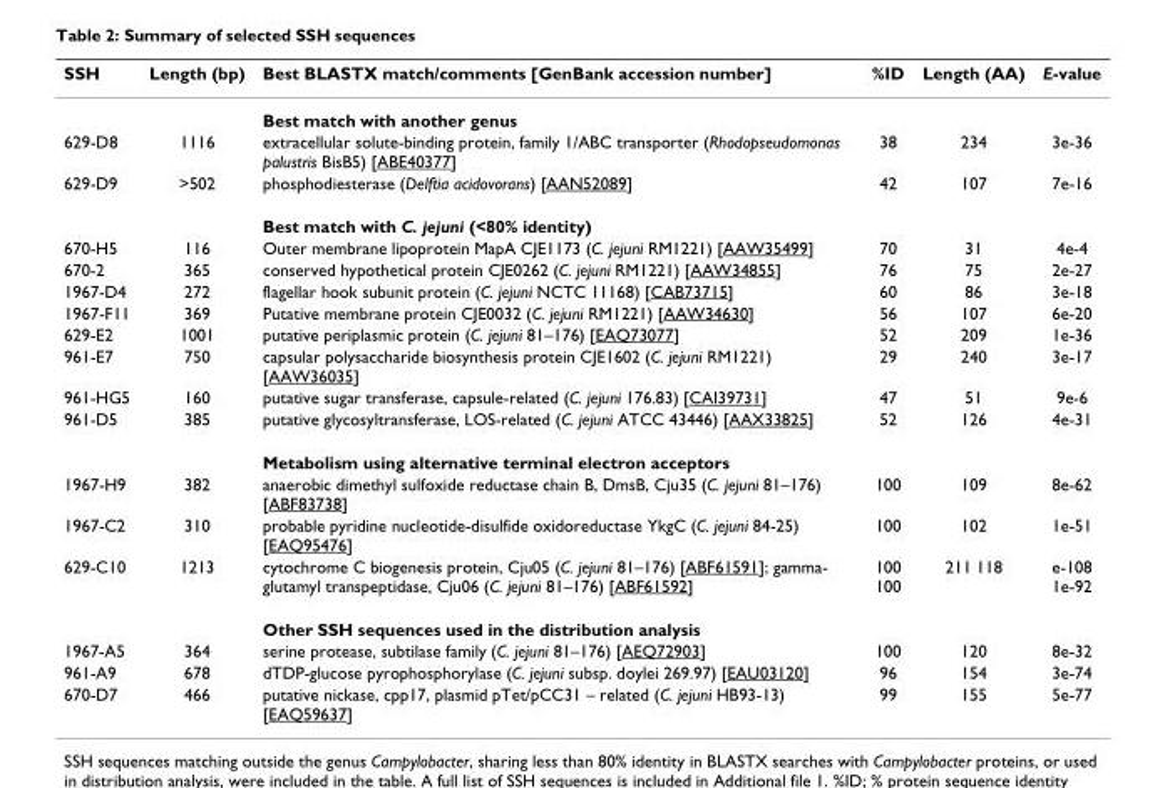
<table><thead><tr><td>SSH</td><td>Length (bp)</td><td>Best BLASTX match/comments [GenBank accession number]</td><td>%ID</td><td>Length (AA)</td><td>E-value</td></tr></thead><tbody><tr><td></td><td></td><td>Best match with another genus</td><td></td><td></td><td></td></tr><tr><td>629-D8</td><td>1116</td><td>extracellular solute-binding protein, family 1/ABC transporter (Rhodopseudomonas palustris BisB5) [ABE40377]</td><td>38</td><td>234</td><td>3e-36</td></tr><tr><td rowspan="2">629-D9</td><td>&gt;502</td><td>phosphodiesterase (Delftia acidovorans) [AAN52089]</td><td>42</td><td>107</td><td>7e-16</td></tr><tr><td></td><td>Best match with C. jejuni (&lt;80% identity)</td><td></td><td></td><td></td></tr><tr><td>670-H5</td><td>116</td><td>Outer membrane lipoprotein MapA CJE1173 (C. jejuni RM1221) [AAW35499]</td><td>70</td><td>31</td><td>4e-4</td></tr><tr><td>670-2</td><td>365</td><td>conserved hypothetical protein CJE0262 (C. jejuni RM1221) [AAW34855]</td><td>76</td><td>75</td><td>2e-27</td></tr><tr><td>1967-D4</td><td>272</td><td>flagellar hook subunit protein (C. jejuni NCTC 11168) [CAB73715]</td><td>60</td><td>86</td><td>3e-18</td></tr><tr><td>1967-F11</td><td>369</td><td>Putative membrane protein CJE0032 (C. jejuni RM1221) [AAW34630]</td><td>56</td><td>107</td><td>6e-20</td></tr><tr><td>629-E2</td><td>1001</td><td>putative periplasmic protein (C. jejuni 81–176) [EAQ73077]</td><td>52</td><td>209</td><td>1e-36</td></tr><tr><td>961-E7</td><td>750</td><td>capsular polysaccharide biosynthesis protein CJE1602 (C. jejuni RM1221) [AAW36035]</td><td>29</td><td>240</td><td>3e-17</td></tr><tr><td>961-HG5</td><td>160</td><td>putative sugar transferase, capsule-related (C. jejuni 176.83) [CAI39731]</td><td>47</td><td>51</td><td>9e-6</td></tr><tr><td rowspan="2">961-D5</td><td>385</td><td>putative glycosyltransferase, LOS-related (C. jejuni ATCC 43446) [AAX33825]</td><td>52</td><td>126</td><td>4e-31</td></tr><tr><td></td><td>Metabolism using alternative terminal electron acceptors</td><td></td><td></td><td></td></tr><tr><td>1967-H9</td><td>382</td><td>anaerobic dimethyl sulfoxide reductase chain B, DmsB, Cju35 (C. jejuni 81–176) [ABF83738]</td><td>100</td><td>109</td><td>8e-62</td></tr><tr><td>1967-C2</td><td>310</td><td>probable pyridine nucleotide-disulfide oxidoreductase YkgC (C. jejuni 84-25) [EAQ95476]</td><td>100</td><td>102</td><td>1e-51</td></tr><tr><td rowspan="2">629-C10</td><td>1213</td><td>cytochrome C biogenesis protein, Cju05 (C. jejuni 81–176) [ABF61591]; gamma- glutamyl transpeptidase, Cju06 (C. jejuni 81–176) [ABF61592]</td><td>100 100</td><td>211 118</td><td>e-108 1e-92</td></tr><tr><td></td><td>Other SSH sequences used in the distribution analysis</td><td></td><td></td><td></td></tr><tr><td>1967-A5</td><td>364</td><td>serine protease, subtilase family (C. jejuni 81–176) [AEQ72903]</td><td>100</td><td>120</td><td>8e-32</td></tr><tr><td>961-A9</td><td>678</td><td>dTDP-glucose pyrophosphorylase (C. jejuni subsp. doylei 269.97) [EAU03120]</td><td>96</td><td>154</td><td>3e-74</td></tr><tr><td>670-D7</td><td>466</td><td>putative nickase, cpp17, plasmid pTet/pCC31 – related (C. jejuni HB93-13) [EAQ59637]</td><td>99</td><td>155</td><td>5e-77</td></tr></tbody></table>